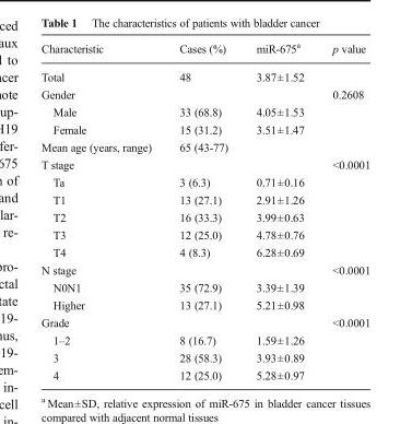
<table><thead><tr><td>Characteristic</td><td>Cases (%)</td><td>miR-675<sup>a</sup></td><td>p value</td></tr></thead><tbody><tr><td>Total</td><td>48</td><td>3.87±1.52</td><td></td></tr><tr><td>Gender</td><td></td><td></td><td>0.2608</td></tr><tr><td>Male</td><td>33 (68.8)</td><td>4.05±1.53</td><td></td></tr><tr><td>Female</td><td>15 (31.2)</td><td>3.51±1.47</td><td></td></tr><tr><td>Mean age (years, range)</td><td>65 (43-77)</td><td></td><td></td></tr><tr><td>T stage</td><td></td><td></td><td>&lt;0.0001</td></tr><tr><td>Ta</td><td>3 (6.3)</td><td>0.71±0.16</td><td></td></tr><tr><td>T1</td><td>13 (27.1)</td><td>2.91±1.26</td><td></td></tr><tr><td>T2</td><td>16 (33.3)</td><td>3.99±0.63</td><td></td></tr><tr><td>T3</td><td>12 (25.0)</td><td>4.78±0.76</td><td></td></tr><tr><td>T4</td><td>4 (8.3)</td><td>6.28±0.69</td><td></td></tr><tr><td>N stage</td><td></td><td></td><td>&lt;0.0001</td></tr><tr><td>N0N1</td><td>35 (72.9)</td><td>3.39±1.39</td><td></td></tr><tr><td>Higher</td><td>13 (27.1)</td><td>5.21±0.98</td><td></td></tr><tr><td>Grade</td><td></td><td></td><td>&lt;0.0001</td></tr><tr><td>1–2</td><td>8 (16.7)</td><td>1.59±1.26</td><td></td></tr><tr><td>3</td><td>28 (58.3)</td><td>3.93±0.89</td><td></td></tr><tr><td>4</td><td>12 (25.0)</td><td>5.28±0.97</td><td></td></tr></tbody></table>